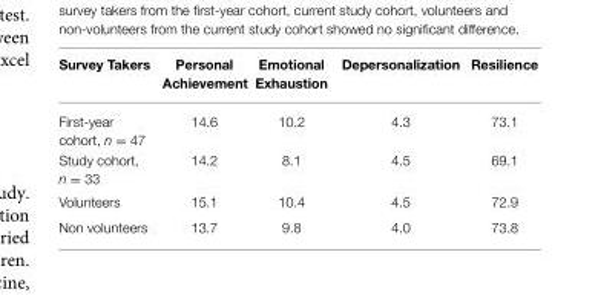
<table><thead><tr><td>Survey Takers</td><td>Personal Achievement</td><td>Emotional Exhaustion</td><td>Depersonalization</td><td>Resilience</td></tr></thead><tbody><tr><td>First-year cohort, n = 47</td><td>14.6</td><td>10.2</td><td>4.3</td><td>73.1</td></tr><tr><td>Study cohort, n = 33</td><td>14.2</td><td>8.1</td><td>4.5</td><td>69.1</td></tr><tr><td>Volunteers</td><td>15.1</td><td>10.4</td><td>4.5</td><td>72.9</td></tr><tr><td>Non volunteers</td><td>13.7</td><td>9.8</td><td>4.0</td><td>73.8</td></tr></tbody></table>